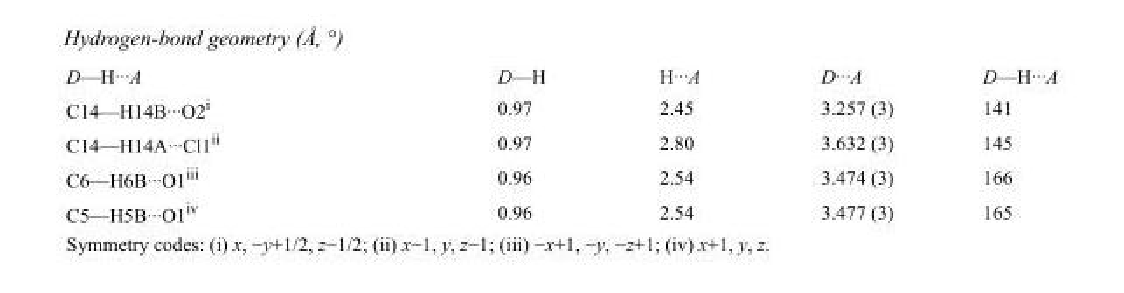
<table><tbody><tr><td>D—H···A</td><td>D—H</td><td>H···A</td><td>D···A</td><td>D—H···A</td></tr><tr><td>C14—H14B···O2<sup>i</sup></td><td>0.97</td><td>2.45</td><td>3.257 (3)</td><td>141</td></tr><tr><td>C14—H14A···Cl1<sup>ii</sup></td><td>0.97</td><td>2.80</td><td>3.632 (3)</td><td>145</td></tr><tr><td>C6—H6B···O1<sup>iii</sup></td><td>0.96</td><td>2.54</td><td>3.474 (3)</td><td>166</td></tr><tr><td>C5—H5B···O1<sup>iv</sup></td><td>0.96</td><td>2.54</td><td>3.477 (3)</td><td>165</td></tr></tbody></table>